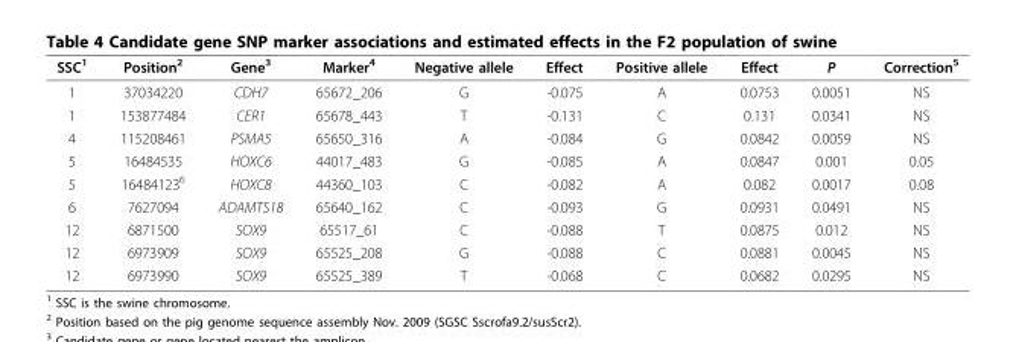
<table><thead><tr><td>SSC<sup>1</sup></td><td>Position<sup>2</sup></td><td>Gene<sup>3</sup></td><td>Marker<sup>4</sup></td><td>Negative allele</td><td>Effect</td><td>Positive allele</td><td>Effect</td><td>P</td><td>Correction<sup>5</sup></td></tr></thead><tbody><tr><td>1</td><td>37034220</td><td>CDH7</td><td>65672_206</td><td>G</td><td>-0.075</td><td>A</td><td>0.0753</td><td>0.0051</td><td>NS</td></tr><tr><td>1</td><td>153877484</td><td>CER1</td><td>65678_443</td><td>T</td><td>-0.131</td><td>C</td><td>0.131</td><td>0.0341</td><td>NS</td></tr><tr><td>4</td><td>115208461</td><td>PSMA5</td><td>65650_316</td><td>A</td><td>-0.084</td><td>G</td><td>0.0842</td><td>0.0059</td><td>NS</td></tr><tr><td>5</td><td>16484535</td><td>HOXC6</td><td>44017_483</td><td>G</td><td>-0.085</td><td>A</td><td>0.0847</td><td>0.001</td><td>0.05</td></tr><tr><td>5</td><td>16484123<sup>6</sup></td><td>HOXC8</td><td>44360_103</td><td>C</td><td>-0.082</td><td>A</td><td>0.082</td><td>0.0017</td><td>0.08</td></tr><tr><td>6</td><td>7627094</td><td>ADAMTS18</td><td>65640_162</td><td>C</td><td>-0.093</td><td>G</td><td>0.0931</td><td>0.0491</td><td>NS</td></tr><tr><td>12</td><td>6871500</td><td>SOX9</td><td>65517_61</td><td>C</td><td>-0.088</td><td>T</td><td>0.0875</td><td>0.012</td><td>NS</td></tr><tr><td>12</td><td>6973909</td><td>SOX9</td><td>65525_208</td><td>G</td><td>-0.088</td><td>C</td><td>0.0881</td><td>0.0045</td><td>NS</td></tr><tr><td>12</td><td>6973990</td><td>SOX9</td><td>65525_389</td><td>T</td><td>-0.068</td><td>C</td><td>0.0682</td><td>0.0295</td><td>NS</td></tr></tbody></table>